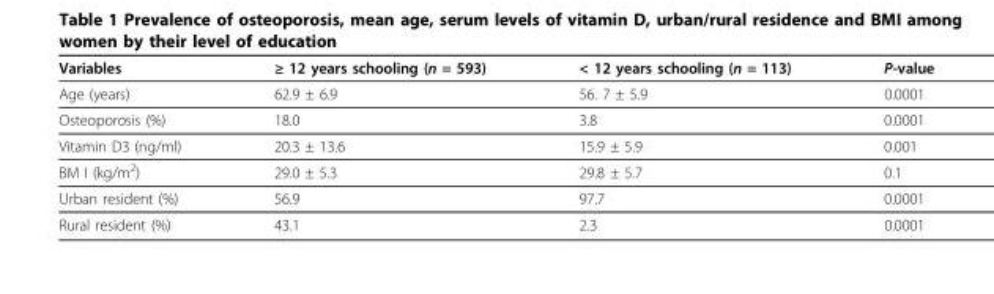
<table><thead><tr><td>Variables</td><td>≥ 12 years schooling (n = 593)</td><td>&lt; 12 years schooling (n = 113)</td><td>P-value</td></tr></thead><tbody><tr><td>Age (years)</td><td>62.9 ± 6.9</td><td>56. 7 ± 5.9</td><td>0.0001</td></tr><tr><td>Osteoporosis (%)</td><td>18.0</td><td>3.8</td><td>0.0001</td></tr><tr><td>Vitamin D3 (ng/ml)</td><td>20.3 ± 13.6</td><td>15.9 ± 5.9</td><td>0.001</td></tr><tr><td>BM I (kg/m<sup>2</sup>)</td><td>29.0 ± 5.3</td><td>29.8 ± 5.7</td><td>0.1</td></tr><tr><td>Urban resident (%)</td><td>56.9</td><td>97.7</td><td>0.0001</td></tr><tr><td>Rural resident (%)</td><td>43.1</td><td>2.3</td><td>0.0001</td></tr></tbody></table>